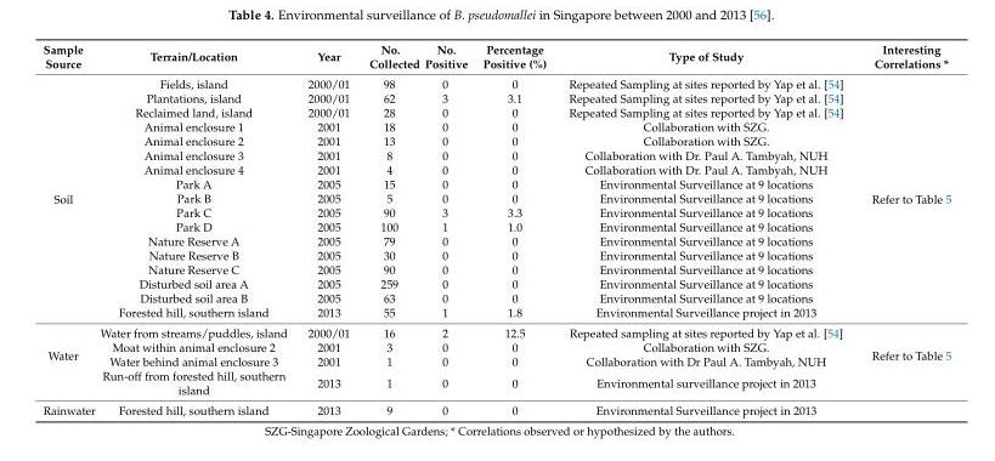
<table><thead><tr><td>Sample Source</td><td>Terrain/Location</td><td>Year</td><td>No. Collected</td><td>No. Positive</td><td>Percentage Positive (%)</td><td>Type of Study</td><td>Interesting Correlations *</td></tr></thead><tbody><tr><td rowspan="17">Soil</td><td>Fields, island</td><td>2000/01</td><td>98</td><td>0</td><td>0</td><td>Repeated Sampling at sites reported by Yap et al. [54]</td><td rowspan="17">Refer to Table 5</td></tr><tr><td>Plantations, island</td><td>2000/01</td><td>62</td><td>3</td><td>3.1</td><td>Repeated Sampling at sites reported by Yap et al. [54]</td></tr><tr><td>Reclaimed land, island</td><td>2000/01</td><td>28</td><td>0</td><td>0</td><td>Repeated Sampling at sites reported by Yap et al. [54]</td></tr><tr><td>Animal enclosure 1</td><td>2001</td><td>18</td><td>0</td><td>0</td><td>Collaboration with SZG.</td></tr><tr><td>Animal enclosure 2</td><td>2001</td><td>13</td><td>0</td><td>0</td><td>Collaboration with SZG.</td></tr><tr><td>Animal enclosure 3</td><td>2001</td><td>8</td><td>0</td><td>0</td><td>Collaboration with Dr. Paul A. Tambyah, NUH</td></tr><tr><td>Animal enclosure 4</td><td>2001</td><td>4</td><td>0</td><td>0</td><td>Collaboration with Dr. Paul A. Tambyah, NUH</td></tr><tr><td>Park A</td><td>2005</td><td>15</td><td>0</td><td>0</td><td>Environmental Surveillance at 9 locations</td></tr><tr><td>Park B</td><td>2005</td><td>5</td><td>0</td><td>0</td><td>Environmental Surveillance at 9 locations</td></tr><tr><td>Park C</td><td>2005</td><td>90</td><td>3</td><td>3.3</td><td>Environmental Surveillance at 9 locations</td></tr><tr><td>Park D</td><td>2005</td><td>100</td><td>1</td><td>1.0</td><td>Environmental Surveillance at 9 locations</td></tr><tr><td>Nature Reserve A</td><td>2005</td><td>79</td><td>0</td><td>0</td><td>Environmental Surveillance at 9 locations</td></tr><tr><td>Nature Reserve B</td><td>2005</td><td>30</td><td>0</td><td>0</td><td>Environmental Surveillance at 9 locations</td></tr><tr><td>Nature Reserve C</td><td>2005</td><td>90</td><td>0</td><td>0</td><td>Environmental Surveillance at 9 locations</td></tr><tr><td>Disturbed soil area A</td><td>2005</td><td>259</td><td>0</td><td>0</td><td>Environmental Surveillance at 9 locations</td></tr><tr><td>Disturbed soil area B</td><td>2005</td><td>63</td><td>0</td><td>0</td><td>Environmental Surveillance at 9 locations</td></tr><tr><td>Forested hill, southern island</td><td>2013</td><td>55</td><td>1</td><td>1.8</td><td>Environmental Surveillance project in 2013</td></tr><tr><td rowspan="4">Water</td><td>Water from streams/puddles, island</td><td>2000/01</td><td>16</td><td>2</td><td>12.5</td><td>Repeated sampling at sites reported by Yap et al. [54]</td><td rowspan="4">Refer to Table 5</td></tr><tr><td>Moat within animal enclosure 2</td><td>2001</td><td>3</td><td>0</td><td>0</td><td>Collaboration with SZG.</td></tr><tr><td>Water behind animal enclosure 3</td><td>2001</td><td>1</td><td>0</td><td>0</td><td>Collaboration with Dr Paul A. Tambyah, NUH</td></tr><tr><td>Run-off from forested hill, southern island</td><td>2013</td><td>1</td><td>0</td><td>0</td><td>Environmental surveillance project in 2013</td></tr><tr><td>Rainwater</td><td>Forested hill, southern island</td><td>2013</td><td>9</td><td>0</td><td>0</td><td>Environmental Surveillance project in 2013</td><td></td></tr></tbody></table>